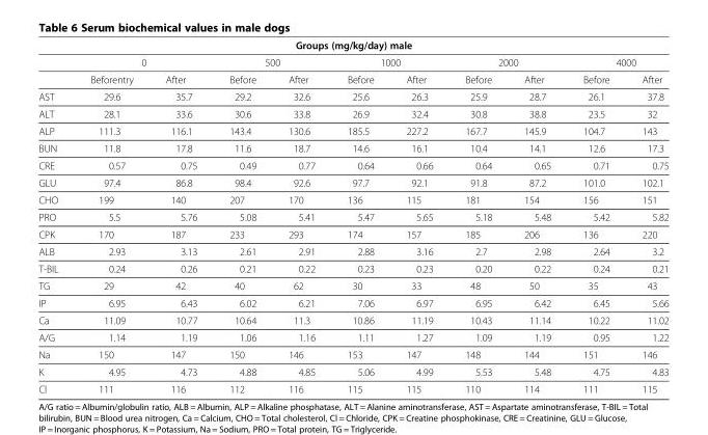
<table><thead><tr><td colspan="11">Groups (mg/kg/day) male</td></tr><tr><td rowspan="2"></td><td colspan="2">0</td><td colspan="2">500</td><td colspan="2">1000</td><td colspan="2">2000</td><td colspan="2">4000</td></tr><tr><td>Beforentry</td><td>After</td><td>Before</td><td>After</td><td>Before</td><td>After</td><td>Before</td><td>After</td><td>Before</td><td>After</td></tr></thead><tbody><tr><td>AST</td><td>29.6</td><td>35.7</td><td>29.2</td><td>32.6</td><td>25.6</td><td>26.3</td><td>25.9</td><td>28.7</td><td>26.1</td><td>37.8</td></tr><tr><td>ALT</td><td>28.1</td><td>33.6</td><td>30.6</td><td>33.8</td><td>26.9</td><td>32.4</td><td>30.8</td><td>38.8</td><td>23.5</td><td>32</td></tr><tr><td>ALP</td><td>111.3</td><td>116.1</td><td>143.4</td><td>130.6</td><td>185.5</td><td>227.2</td><td>167.7</td><td>145.9</td><td>104.7</td><td>143</td></tr><tr><td>BUN</td><td>11.8</td><td>17.8</td><td>11.6</td><td>18.7</td><td>14.6</td><td>16.1</td><td>10.4</td><td>14.1</td><td>12.6</td><td>17.3</td></tr><tr><td>CRE</td><td>0.57</td><td>0.75</td><td>0.49</td><td>0.77</td><td>0.64</td><td>0.66</td><td>0.64</td><td>0.65</td><td>0.71</td><td>0.75</td></tr><tr><td>GLU</td><td>97.4</td><td>86.8</td><td>98.4</td><td>92.6</td><td>97.7</td><td>92.1</td><td>91.8</td><td>87.2</td><td>101.0</td><td>102.1</td></tr><tr><td>CHO</td><td>199</td><td>140</td><td>207</td><td>170</td><td>136</td><td>115</td><td>181</td><td>154</td><td>156</td><td>151</td></tr><tr><td>PRO</td><td>5.5</td><td>5.76</td><td>5.08</td><td>5.41</td><td>5.47</td><td>5.65</td><td>5.18</td><td>5.48</td><td>5.42</td><td>5.82</td></tr><tr><td>CPK</td><td>170</td><td>187</td><td>233</td><td>293</td><td>174</td><td>157</td><td>185</td><td>206</td><td>136</td><td>220</td></tr><tr><td>ALB</td><td>2.93</td><td>3.13</td><td>2.61</td><td>2.91</td><td>2.88</td><td>3.16</td><td>2.7</td><td>2.98</td><td>2.64</td><td>3.2</td></tr><tr><td>T-BIL</td><td>0.24</td><td>0.26</td><td>0.21</td><td>0.22</td><td>0.23</td><td>0.23</td><td>0.20</td><td>0.22</td><td>0.24</td><td>0.21</td></tr><tr><td>TG</td><td>29</td><td>42</td><td>40</td><td>62</td><td>30</td><td>33</td><td>48</td><td>50</td><td>35</td><td>43</td></tr><tr><td>IP</td><td>6.95</td><td>6.43</td><td>6.02</td><td>6.21</td><td>7.06</td><td>6.97</td><td>6.95</td><td>6.42</td><td>6.45</td><td>5.66</td></tr><tr><td>Ca</td><td>11.09</td><td>10.77</td><td>10.64</td><td>11.3</td><td>10.86</td><td>11.19</td><td>10.43</td><td>11.14</td><td>10.22</td><td>11.02</td></tr><tr><td>A/G</td><td>1.14</td><td>1.19</td><td>1.06</td><td>1.16</td><td>1.11</td><td>1.27</td><td>1.09</td><td>1.19</td><td>0.95</td><td>1.22</td></tr><tr><td>Na</td><td>150</td><td>147</td><td>150</td><td>146</td><td>153</td><td>147</td><td>148</td><td>144</td><td>151</td><td>146</td></tr><tr><td>K</td><td>4.95</td><td>4.73</td><td>4.88</td><td>4.85</td><td>5.06</td><td>4.99</td><td>5.53</td><td>5.48</td><td>4.75</td><td>4.83</td></tr><tr><td>Cl</td><td>111</td><td>116</td><td>112</td><td>116</td><td>115</td><td>115</td><td>110</td><td>114</td><td>111</td><td>115</td></tr></tbody></table>